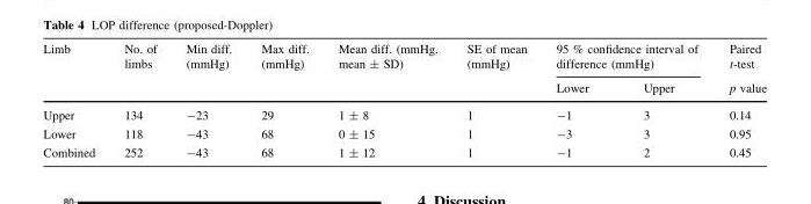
<table><thead><tr><td rowspan="2">Limb</td><td rowspan="2">No. of limbs</td><td rowspan="2">Min diff. (mmHg)</td><td rowspan="2">Max diff. (mmHg)</td><td rowspan="2">Mean diff. (mmHg, mean ± SD)</td><td rowspan="2">SE of mean (mmHg)</td><td colspan="2">95 % confidence interval of difference (mmHg)</td><td rowspan="2">Paired t-test p value</td></tr><tr><td>Lower</td><td>Upper</td></tr></thead><tbody><tr><td>Upper</td><td>134</td><td>-23</td><td>29</td><td>1 ± 8</td><td>1</td><td>-1</td><td>3</td><td>0.14</td></tr><tr><td>Lower</td><td>118</td><td>-43</td><td>68</td><td>0 ± 15</td><td>1</td><td>-3</td><td>3</td><td>0.95</td></tr><tr><td>Combined</td><td>252</td><td>-43</td><td>68</td><td>1 ± 12</td><td>1</td><td>-1</td><td>2</td><td>0.45</td></tr></tbody></table>